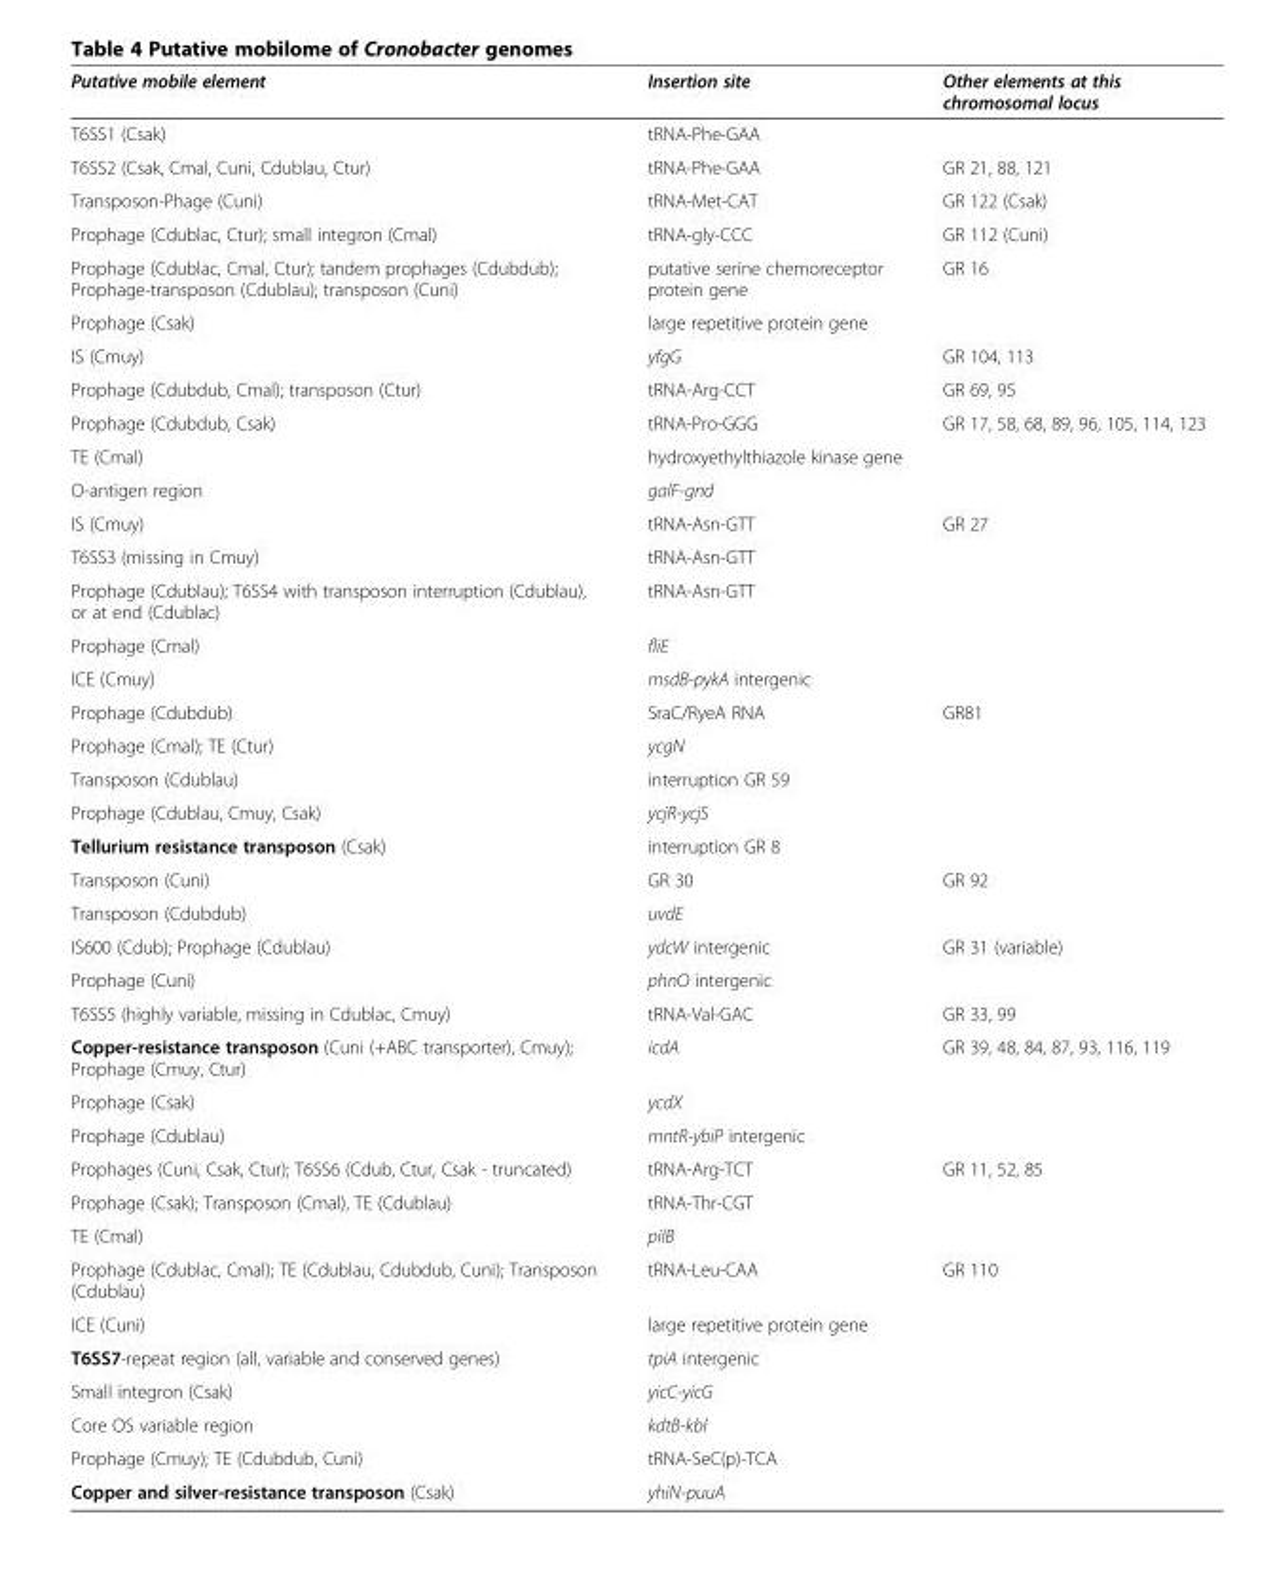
<table><thead><tr><td>Putative mobile element</td><td>Insertion site</td><td>Other elements at this chromosomal locus</td></tr></thead><tbody><tr><td>T6SS1 (Csak)</td><td>tRNA-Phe-GAA</td><td></td></tr><tr><td>T6SS2 (Csak, Cmal, Cuni, Cdublau, Ctur)</td><td>tRNA-Phe-GAA</td><td>GR 21, 88, 121</td></tr><tr><td>Transposon-Phage (Cuni)</td><td>tRNA-Met-CAT</td><td>GR 122 (Csak)</td></tr><tr><td>Prophage (Cdublac, Ctur); small integron (Cmal)</td><td>tRNA-gly-CCC</td><td>GR 112 (Cuni)</td></tr><tr><td>Prophage (Cdublac, Cmal, Ctur); tandem prophages (Cdubdub); Prophage-transposon (Cdublau); transposon (Cuni)</td><td>putative serine chemoreceptor protein gene</td><td>GR 16</td></tr><tr><td>Prophage (Csak)</td><td>large repetitive protein gene</td><td></td></tr><tr><td>IS (Cmuy)</td><td>yfgG</td><td>GR 104, 113</td></tr><tr><td>Prophage (Cdubdub, Cmal); transposon (Ctur)</td><td>tRNA-Arg-CCT</td><td>GR 69, 95</td></tr><tr><td>Prophage (Cdubdub, Csak)</td><td>tRNA-Pro-GGG</td><td>GR 17, 58, 68, 89, 96, 105, 114, 123</td></tr><tr><td>TE (Cmal)</td><td>hydroxyethylthiazole kinase gene</td><td></td></tr><tr><td>O-antigen region</td><td>galF-gnd</td><td></td></tr><tr><td>IS (Cmuy)</td><td>tRNA-Asn-GTT</td><td>GR 27</td></tr><tr><td>T6SS3 (missing in Cmuy)</td><td>tRNA-Asn-GTT</td><td></td></tr><tr><td>Prophage (Cdublau); T6SS4 with transposon interruption (Cdublau), or at end (Cdublac)</td><td>tRNA-Asn-GTT</td><td></td></tr><tr><td>Prophage (Cmal)</td><td>fliE</td><td></td></tr><tr><td>ICE (Cmuy)</td><td>msdB-pykA intergenic</td><td></td></tr><tr><td>Prophage (Cdubdub)</td><td>SraC/RyeA RNA</td><td>GR81</td></tr><tr><td>Prophage (Cmal); TE (Ctur)</td><td>ycgN</td><td></td></tr><tr><td>Transposon (Cdublau)</td><td>interruption GR 59</td><td></td></tr><tr><td>Prophage (Cdublau, Cmuy, Csak)</td><td>ycjR-ycjS</td><td></td></tr><tr><td>Tellurium resistance transposon (Csak)</td><td>interruption GR 8</td><td></td></tr><tr><td>Transposon (Cuni)</td><td>GR 30</td><td>GR 92</td></tr><tr><td>Transposon (Cdubdub)</td><td>uvdE</td><td></td></tr><tr><td>IS600 (Cdub); Prophage (Cdublau)</td><td>ydcW intergenic</td><td>GR 31 (variable)</td></tr><tr><td>Prophage (Cuni)</td><td>phnO intergenic</td><td></td></tr><tr><td>T6SS5 (highly variable, missing in Cdublac, Cmuy)</td><td>tRNA-Val-GAC</td><td>GR 33, 99</td></tr><tr><td>Copper-resistance transposon (Cuni (+ABC transporter), Cmuy); Prophage (Cmuy, Ctur)</td><td>icdA</td><td>GR 39, 48, 84, 87, 93, 116, 119</td></tr><tr><td>Prophage (Csak)</td><td>ycdX</td><td></td></tr><tr><td>Prophage (Cdublau)</td><td>mntR-ybiP intergenic</td><td></td></tr><tr><td>Prophages (Cuni, Csak, Ctur); T6SS6 (Cdub, Ctur, Csak - truncated)</td><td>tRNA-Arg-TCT</td><td>GR 11, 52, 85</td></tr><tr><td>Prophage (Csak); Transposon (Cmal), TE (Cdublau)</td><td>tRNA-Thr-CGT</td><td></td></tr><tr><td>TE (Cmal)</td><td>pilB</td><td></td></tr><tr><td>Prophage (Cdublac, Cmal); TE (Cdublau, Cdubdub, Cuni); Transposon (Cdublau)</td><td>tRNA-Leu-CAA</td><td>GR 110</td></tr><tr><td>ICE (Cuni)</td><td>large repetitive protein gene</td><td></td></tr><tr><td>T6SS7-repeat region (all, variable and conserved genes)</td><td>tpiA intergenic</td><td></td></tr><tr><td>Small integron (Csak)</td><td>yicC-yicG</td><td></td></tr><tr><td>Core OS variable region</td><td>kdtB-kbl</td><td></td></tr><tr><td>Prophage (Cmuy); TE (Cdubdub, Cuni)</td><td>tRNA-SeC(p)-TCA</td><td></td></tr><tr><td>Copper and silver-resistance transposon (Csak)</td><td>yhiN-puuA</td><td></td></tr></tbody></table>